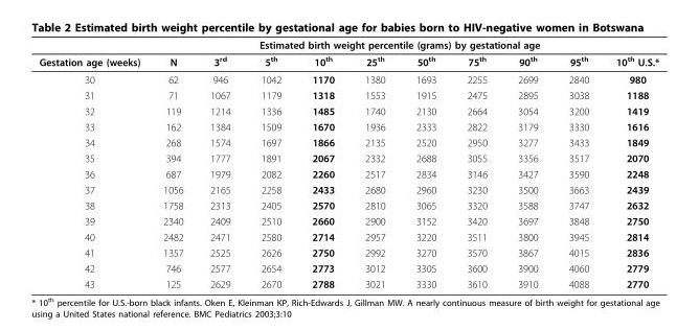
<table><thead><tr><td rowspan="2">Gestation age (weeks)</td><td rowspan="2">N</td><td colspan="8">Estimated birth weight percentile (grams) by gestational age</td><td rowspan="2">10<sup>th</sup> U.S.*</td></tr><tr><td>3<sup>rd</sup></td><td>5<sup>th</sup></td><td>10<sup>th</sup></td><td>25<sup>th</sup></td><td>50<sup>th</sup></td><td>75<sup>th</sup></td><td>90<sup>th</sup></td><td>95<sup>th</sup></td></tr></thead><tbody><tr><td>30</td><td>62</td><td>946</td><td>1042</td><td>1170</td><td>1380</td><td>1693</td><td>2255</td><td>2699</td><td>2840</td><td>980</td></tr><tr><td>31</td><td>71</td><td>1067</td><td>1179</td><td>1318</td><td>1553</td><td>1915</td><td>2475</td><td>2895</td><td>3038</td><td>1188</td></tr><tr><td>32</td><td>119</td><td>1214</td><td>1336</td><td>1485</td><td>1740</td><td>2130</td><td>2664</td><td>3054</td><td>3200</td><td>1419</td></tr><tr><td>33</td><td>162</td><td>1384</td><td>1509</td><td>1670</td><td>1936</td><td>2333</td><td>2822</td><td>3179</td><td>3330</td><td>1616</td></tr><tr><td>34</td><td>268</td><td>1574</td><td>1697</td><td>1866</td><td>2135</td><td>2520</td><td>2950</td><td>3277</td><td>3433</td><td>1849</td></tr><tr><td>35</td><td>394</td><td>1777</td><td>1891</td><td>2067</td><td>2332</td><td>2688</td><td>3055</td><td>3356</td><td>3517</td><td>2070</td></tr><tr><td>36</td><td>687</td><td>1979</td><td>2082</td><td>2260</td><td>2517</td><td>2834</td><td>3146</td><td>3427</td><td>3590</td><td>2248</td></tr><tr><td>37</td><td>1056</td><td>2165</td><td>2258</td><td>2433</td><td>2680</td><td>2960</td><td>3230</td><td>3500</td><td>3663</td><td>2439</td></tr><tr><td>38</td><td>1758</td><td>2313</td><td>2405</td><td>2570</td><td>2810</td><td>3065</td><td>3320</td><td>3588</td><td>3747</td><td>2632</td></tr><tr><td>39</td><td>2340</td><td>2409</td><td>2510</td><td>2660</td><td>2900</td><td>3152</td><td>3420</td><td>3697</td><td>3848</td><td>2750</td></tr><tr><td>40</td><td>2482</td><td>2471</td><td>2580</td><td>2714</td><td>2957</td><td>3220</td><td>3511</td><td>3800</td><td>3945</td><td>2814</td></tr><tr><td>41</td><td>1357</td><td>2525</td><td>2626</td><td>2750</td><td>2992</td><td>3270</td><td>3570</td><td>3867</td><td>4015</td><td>2836</td></tr><tr><td>42</td><td>746</td><td>2577</td><td>2654</td><td>2773</td><td>3012</td><td>3305</td><td>3600</td><td>3900</td><td>4060</td><td>2779</td></tr><tr><td>43</td><td>125</td><td>2629</td><td>2670</td><td>2788</td><td>3021</td><td>3330</td><td>3610</td><td>3910</td><td>4088</td><td>2770</td></tr></tbody></table>